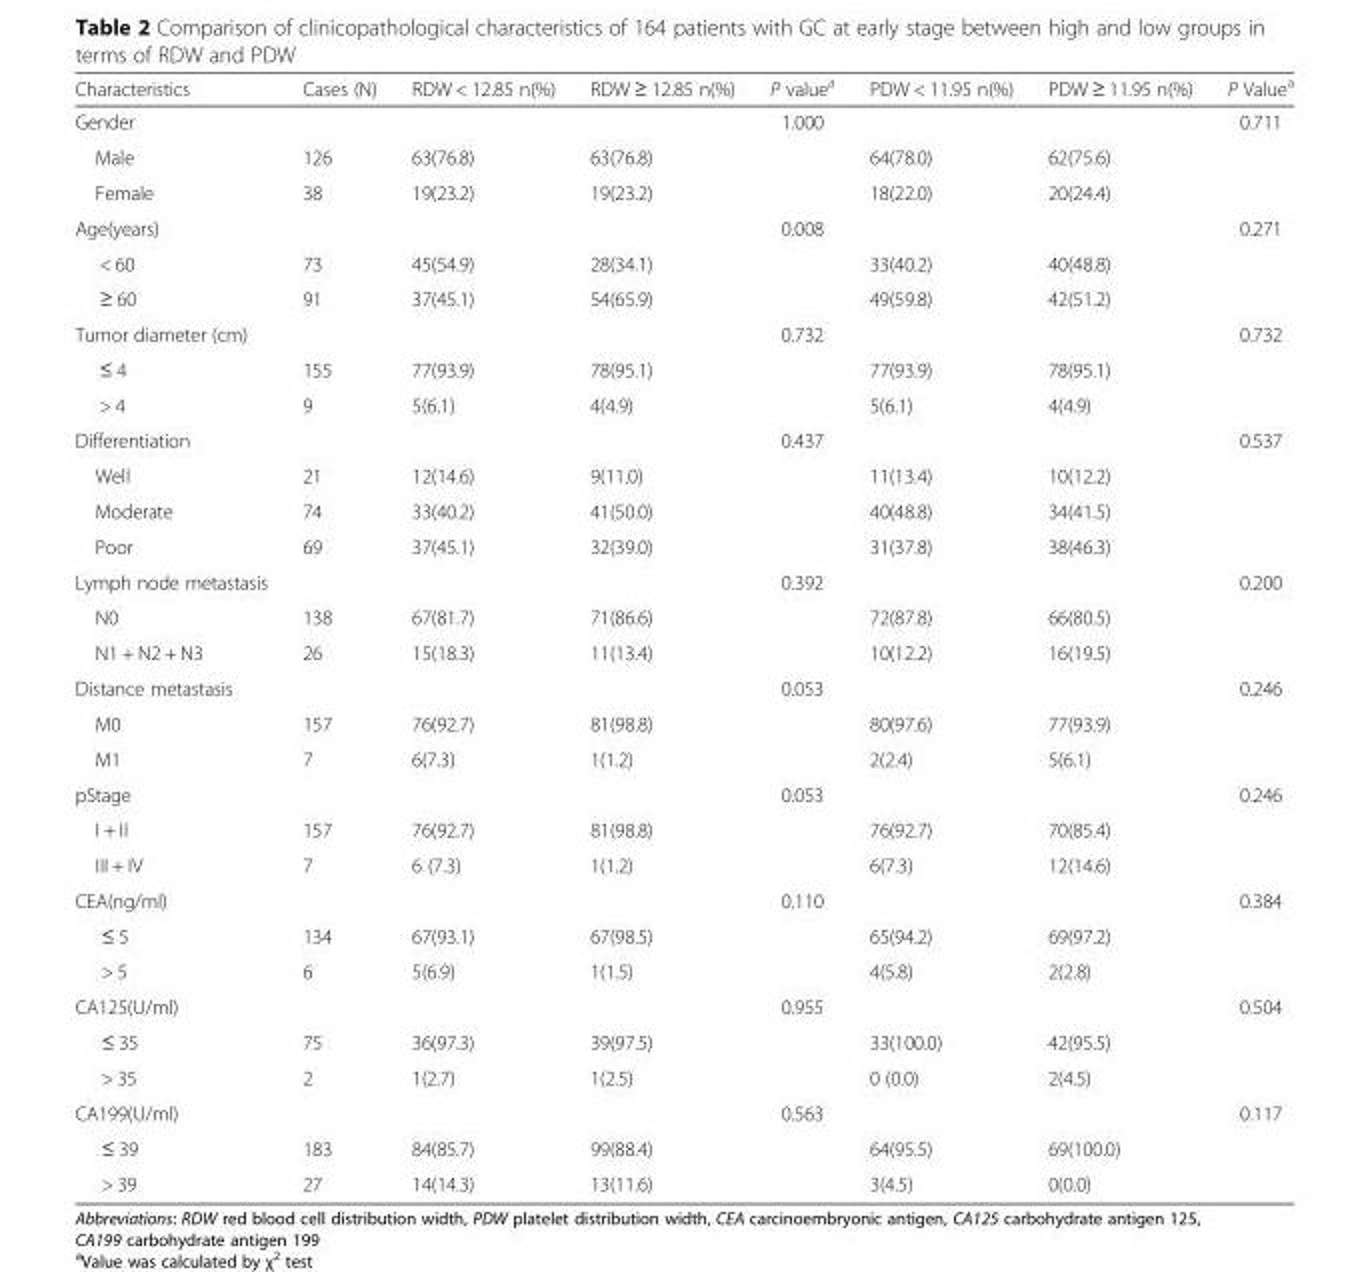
<table><thead><tr><td>Characteristics</td><td>Cases (N)</td><td>RDW &lt; 12.85 n(%)</td><td>RDW ≥ 12.85 n(%)</td><td>P value<sup>a</sup></td><td>PDW &lt; 11.95 n(%)</td><td>PDW ≥ 11.95 n(%)</td><td>P Value<sup>a</sup></td></tr></thead><tbody><tr><td>Gender</td><td></td><td></td><td></td><td>1.000</td><td></td><td></td><td>0.711</td></tr><tr><td>Male</td><td>126</td><td>63(76.8)</td><td>63(76.8)</td><td></td><td>64(78.0)</td><td>62(75.6)</td><td></td></tr><tr><td>Female</td><td>38</td><td>19(23.2)</td><td>19(23.2)</td><td></td><td>18(22.0)</td><td>20(24.4)</td><td></td></tr><tr><td>Age(years)</td><td></td><td></td><td></td><td>0.008</td><td></td><td></td><td>0.271</td></tr><tr><td>&lt; 60</td><td>73</td><td>45(54.9)</td><td>28(34.1)</td><td></td><td>33(40.2)</td><td>40(48.8)</td><td></td></tr><tr><td>≥ 60</td><td>91</td><td>37(45.1)</td><td>54(65.9)</td><td></td><td>49(59.8)</td><td>42(51.2)</td><td></td></tr><tr><td>Tumor diameter (cm)</td><td></td><td></td><td></td><td>0.732</td><td></td><td></td><td>0.732</td></tr><tr><td>≤ 4</td><td>155</td><td>77(93.9)</td><td>78(95.1)</td><td></td><td>77(93.9)</td><td>78(95.1)</td><td></td></tr><tr><td>&gt; 4</td><td>9</td><td>5(6.1)</td><td>4(4.9)</td><td></td><td>5(6.1)</td><td>4(4.9)</td><td></td></tr><tr><td>Differentiation</td><td></td><td></td><td></td><td>0.437</td><td></td><td></td><td>0.537</td></tr><tr><td>Well</td><td>21</td><td>12(14.6)</td><td>9(11.0)</td><td></td><td>11(13.4)</td><td>10(12.2)</td><td></td></tr><tr><td>Moderate</td><td>74</td><td>33(40.2)</td><td>41(50.0)</td><td></td><td>40(48.8)</td><td>34(41.5)</td><td></td></tr><tr><td>Poor</td><td>69</td><td>37(45.1)</td><td>32(39.0)</td><td></td><td>31(37.8)</td><td>38(46.3)</td><td></td></tr><tr><td>Lymph node metastasis</td><td></td><td></td><td></td><td>0.392</td><td></td><td></td><td>0.200</td></tr><tr><td>N0</td><td>138</td><td>67(81.7)</td><td>71(86.6)</td><td></td><td>72(87.8)</td><td>66(80.5)</td><td></td></tr><tr><td>N1 + N2 + N3</td><td>26</td><td>15(18.3)</td><td>11(13.4)</td><td></td><td>10(12.2)</td><td>16(19.5)</td><td></td></tr><tr><td>Distance metastasis</td><td></td><td></td><td></td><td>0.053</td><td></td><td></td><td>0.246</td></tr><tr><td>M0</td><td>157</td><td>76(92.7)</td><td>81(98.8)</td><td></td><td>80(97.6)</td><td>77(93.9)</td><td></td></tr><tr><td>M1</td><td>7</td><td>6(7.3)</td><td>1(1.2)</td><td></td><td>2(2.4)</td><td>5(6.1)</td><td></td></tr><tr><td>pStage</td><td></td><td></td><td></td><td>0.053</td><td></td><td></td><td>0.246</td></tr><tr><td>I + II</td><td>157</td><td>76(92.7)</td><td>81(98.8)</td><td></td><td>76(92.7)</td><td>70(85.4)</td><td></td></tr><tr><td>III + IV</td><td>7</td><td>6 (7.3)</td><td>1(1.2)</td><td></td><td>6(7.3)</td><td>12(14.6)</td><td></td></tr><tr><td>CEA(ng/ml)</td><td></td><td></td><td></td><td>0.110</td><td></td><td></td><td>0.384</td></tr><tr><td>≤ 5</td><td>134</td><td>67(93.1)</td><td>67(98.5)</td><td></td><td>65(94.2)</td><td>69(97.2)</td><td></td></tr><tr><td>&gt; 5</td><td>6</td><td>5(6.9)</td><td>1(1.5)</td><td></td><td>4(5.8)</td><td>2(2.8)</td><td></td></tr><tr><td>CA125(U/ml)</td><td></td><td></td><td></td><td>0.955</td><td></td><td></td><td>0.504</td></tr><tr><td>≤ 35</td><td>75</td><td>36(97.3)</td><td>39(97.5)</td><td></td><td>33(100.0)</td><td>42(95.5)</td><td></td></tr><tr><td>&gt; 35</td><td>2</td><td>1(2.7)</td><td>1(2.5)</td><td></td><td>0 (0.0)</td><td>2(4.5)</td><td></td></tr><tr><td>CA199(U/ml)</td><td></td><td></td><td></td><td>0.563</td><td></td><td></td><td>0.117</td></tr><tr><td>≤ 39</td><td>183</td><td>84(85.7)</td><td>99(88.4)</td><td></td><td>64(95.5)</td><td>69(100.0)</td><td></td></tr><tr><td>&gt; 39</td><td>27</td><td>14(14.3)</td><td>13(11.6)</td><td></td><td>3(4.5)</td><td>0(0.0)</td><td></td></tr></tbody></table>